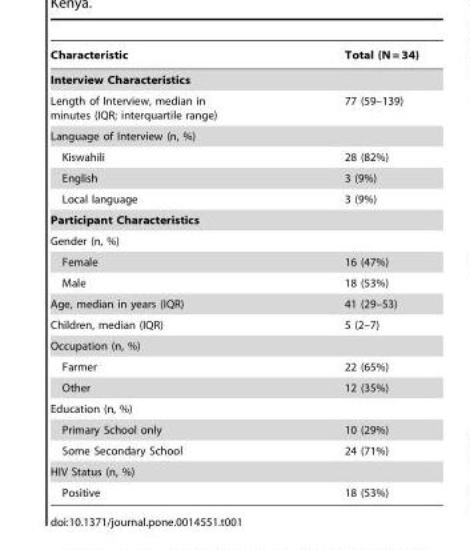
<table><thead><tr><td>Characteristic</td><td>Total (N = 34)</td></tr></thead><tbody><tr><td colspan="2">Interview Characteristics</td></tr><tr><td>Length of Interview, median in minutes (IQR; interquartile range)</td><td>77 (59–139)</td></tr><tr><td colspan="2">Language of Interview (n, %)</td></tr><tr><td>Kiswahili</td><td>28 (82%)</td></tr><tr><td>English</td><td>3 (9%)</td></tr><tr><td>Local language</td><td>3 (9%)</td></tr><tr><td colspan="2">Participant Characteristics</td></tr><tr><td colspan="2">Gender (n, %)</td></tr><tr><td>Female</td><td>16 (47%)</td></tr><tr><td>Male</td><td>18 (53%)</td></tr><tr><td>Age, median in years (IQR)</td><td>41 (29–53)</td></tr><tr><td>Children, median (IQR)</td><td>5 (2–7)</td></tr><tr><td colspan="2">Occupation (n, %)</td></tr><tr><td>Farmer</td><td>22 (65%)</td></tr><tr><td>Other</td><td>12 (35%)</td></tr><tr><td colspan="2">Education (n, %)</td></tr><tr><td>Primary School only</td><td>10 (29%)</td></tr><tr><td>Some Secondary School</td><td>24 (71%)</td></tr><tr><td colspan="2">HIV Status (n, %)</td></tr><tr><td>Positive</td><td>18 (53%)</td></tr></tbody></table>